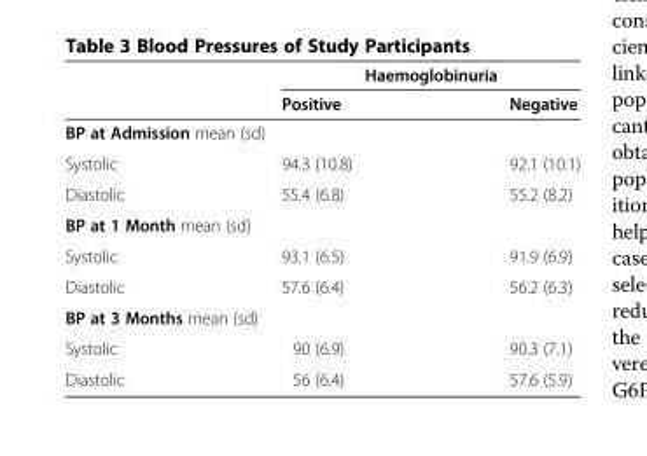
<table><thead><tr><td rowspan="2"></td><td colspan="2">Haemoglobinuria</td></tr><tr><td>Positive</td><td>Negative</td></tr></thead><tbody><tr><td colspan="3">BP at Admission mean (sd)</td></tr><tr><td>Systolic</td><td>94.3 (10.8)</td><td>92.1 (10.1)</td></tr><tr><td>Diastolic</td><td>55.4 (6.8)</td><td>55.2 (8.2)</td></tr><tr><td colspan="3">BP at 1 Month mean (sd)</td></tr><tr><td>Systolic</td><td>93.1 (6.5)</td><td>91.9 (6.9)</td></tr><tr><td>Diastolic</td><td>57.6 (6.4)</td><td>56.2 (6.3)</td></tr><tr><td colspan="3">BP at 3 Months mean (sd)</td></tr><tr><td>Systolic</td><td>90 (6.9)</td><td>90.3 (7.1)</td></tr><tr><td>Diastolic</td><td>56 (6.4)</td><td>57.6 (5.9)</td></tr></tbody></table>